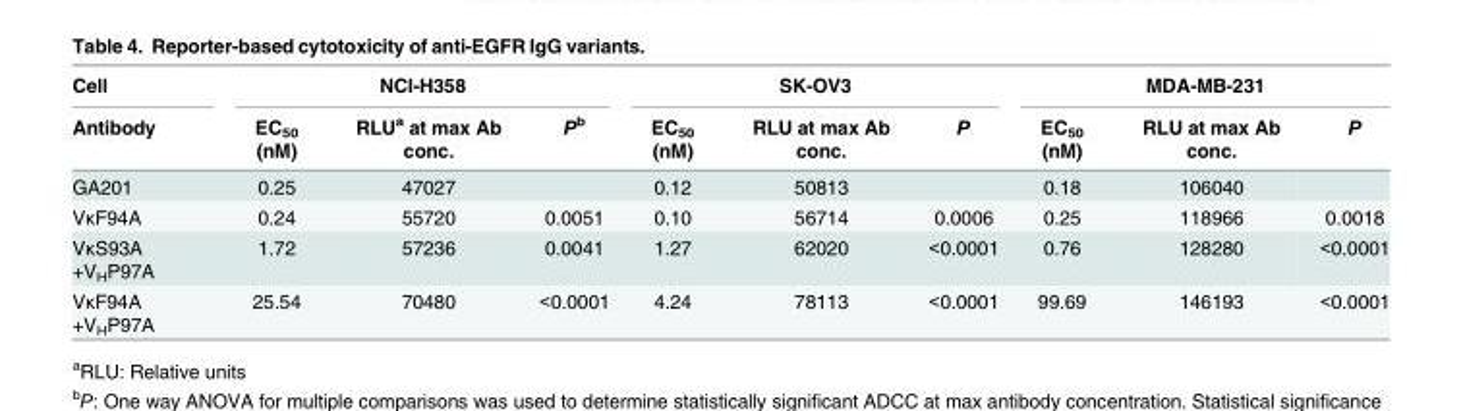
<table><thead><tr><td rowspan="2">Cell Antibody</td><td colspan="3">NCI-H358</td><td colspan="3">SK-OV3</td><td colspan="3">MDA-MB-231</td></tr><tr><td>EC<sub>50</sub> (nM)</td><td>RLU<sup>a</sup> at max Ab conc.</td><td>P<sup>b</sup></td><td>EC<sub>50</sub> (nM)</td><td>RLU at max Ab conc.</td><td>P</td><td>EC<sub>50</sub> (nM)</td><td>RLU at max Ab conc.</td><td>P</td></tr></thead><tbody><tr><td>GA201</td><td>0.25</td><td>47027</td><td></td><td>0.12</td><td>50813</td><td></td><td>0.18</td><td>106040</td><td></td></tr><tr><td>VκF94A</td><td>0.24</td><td>55720</td><td>0.0051</td><td>0.10</td><td>56714</td><td>0.0006</td><td>0.25</td><td>118966</td><td>0.0018</td></tr><tr><td>VκS93A +V<sub>H</sub>P97A</td><td>1.72</td><td>57236</td><td>0.0041</td><td>1.27</td><td>62020</td><td>&lt;0.0001</td><td>0.76</td><td>128280</td><td>&lt;0.0001</td></tr><tr><td>VκF94A +V<sub>H</sub>P97A</td><td>25.54</td><td>70480</td><td>&lt;0.0001</td><td>4.24</td><td>78113</td><td>&lt;0.0001</td><td>99.69</td><td>146193</td><td>&lt;0.0001</td></tr></tbody></table>